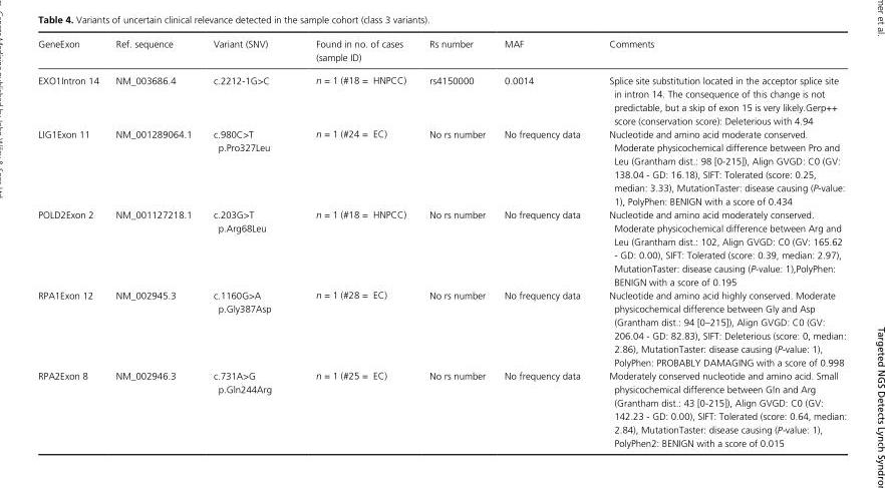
<table><thead><tr><td>GeneExon</td><td>Ref. sequence</td><td>Variant (SNV)</td><td>Found in no. of cases (sample ID)</td><td>Rs number</td><td>MAF</td><td>Comments</td></tr></thead><tbody><tr><td>EXO1Intron 14</td><td>NM_003686.4</td><td>c.2212- 1G&gt;C</td><td>n = 1 (#18 = HNPCC)</td><td>rs4150000</td><td>0.0014</td><td>Splice site substitution located in the acceptor splice site in intron 14. The consequence of this change is not predictable, but a skip of exon 15 is very likely.Gerp++ score (conservation score): Deleterious with 4.94</td></tr><tr><td>LIG1Exon 11</td><td>NM_001289064.1</td><td>c.980C&gt;T p.Pro327Leu</td><td>n = 1 (#24 = EC)</td><td>No rs number</td><td>No frequency data</td><td>Nucleotide and amino acid moderate conserved. Moderate physicochemical difference between Pro and Leu (Grantham dist.: 98 [0- 215]), Align GVGD: C0 (GV: 138.04 - GD: 16.18), SIFT: Tolerated (score: 0.25, median: 3.33), MutationTaster: disease causing (P- value: 1), PolyPhen: BENIGN with a score of 0.434</td></tr><tr><td>POLD2Exon 2</td><td>NM_001127218.1</td><td>c.203G&gt;T p.Arg68Leu</td><td>n = 1 (#18 = HNPCC)</td><td>No rs number</td><td>No frequency data</td><td>Nucleotide and amino acid moderately conserved. Moderate physicochemical difference between Arg and Leu (Grantham dist.: 102, Align GVGD: C0 (GV: 165.62 - GD: 0.00), SIFT: Tolerated (score: 0.39, median: 2.97), MutationTaster: disease causing (P- value: 1),PolyPhen: BENIGN with a score of 0.195</td></tr><tr><td>RPA1Exon 12</td><td>NM_002945.3</td><td>c.1160G&gt;A p.Gly387Asp</td><td>n = 1 (#28 = EC)</td><td>No rs number</td><td>No frequency data</td><td>Nucleotide and amino acid highly conserved. Moderate physicochemical difference between Gly and Asp (Grantham dist.: 94 [0–215]), Align GVGD: C0 (GV: 206.04 - GD: 82.83), SIFT: Deleterious (score: 0, median: 2.86), MutationTaster: disease causing (P- value: 1), PolyPhen: PROBABLY DAMAGING with a score of 0.998</td></tr><tr><td>RPA2Exon 8</td><td>NM_002946.3</td><td>c.731A&gt;G p.Gln244Arg</td><td>n = 1 (#25 = EC)</td><td>No rs number</td><td>No frequency data</td><td>Moderately conserved nucleotide and amino acid. Small physicochemical difference between Gln and Arg (Grantham dist.: 43 [0- 215]), Align GVGD: C0 (GV: 142.23 - GD: 0.00), SIFT: Tolerated (score: 0.64, median: 2.84), MutationTaster: disease causing (P- value: 1), PolyPhen2: BENIGN with a score of 0.015</td></tr></tbody></table>